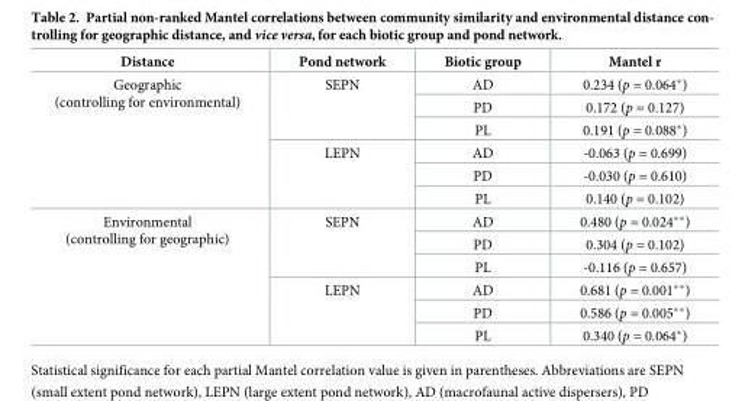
<table><thead><tr><td>Distance</td><td>Pond network</td><td>Biotic group</td><td>Mantel r</td></tr></thead><tbody><tr><td rowspan="6">Geographic (controlling for environmental)</td><td rowspan="3">SEPN</td><td>AD</td><td>0.234 (p = 0.064*)</td></tr><tr><td>PD</td><td>0.172 (p = 0.127)</td></tr><tr><td>PL</td><td>0.191 (p = 0.088*)</td></tr><tr><td rowspan="3">LEPN</td><td>AD</td><td>-0.063 (p = 0.699)</td></tr><tr><td>PD</td><td>-0.030 (p = 0.610)</td></tr><tr><td>PL</td><td>0.140 (p = 0.102)</td></tr><tr><td rowspan="6">Environmental (controlling for geographic)</td><td rowspan="3">SEPN</td><td>AD</td><td>0.480 (p = 0.024**)</td></tr><tr><td>PD</td><td>0.304 (p = 0.102)</td></tr><tr><td>PL</td><td>-0.116 (p = 0.657)</td></tr><tr><td rowspan="3">LEPN</td><td>AD</td><td>0.681 (p = 0.001**)</td></tr><tr><td>PD</td><td>0.586 (p = 0.005**)</td></tr><tr><td>PL</td><td>0.340 (p = 0.064*)</td></tr></tbody></table>